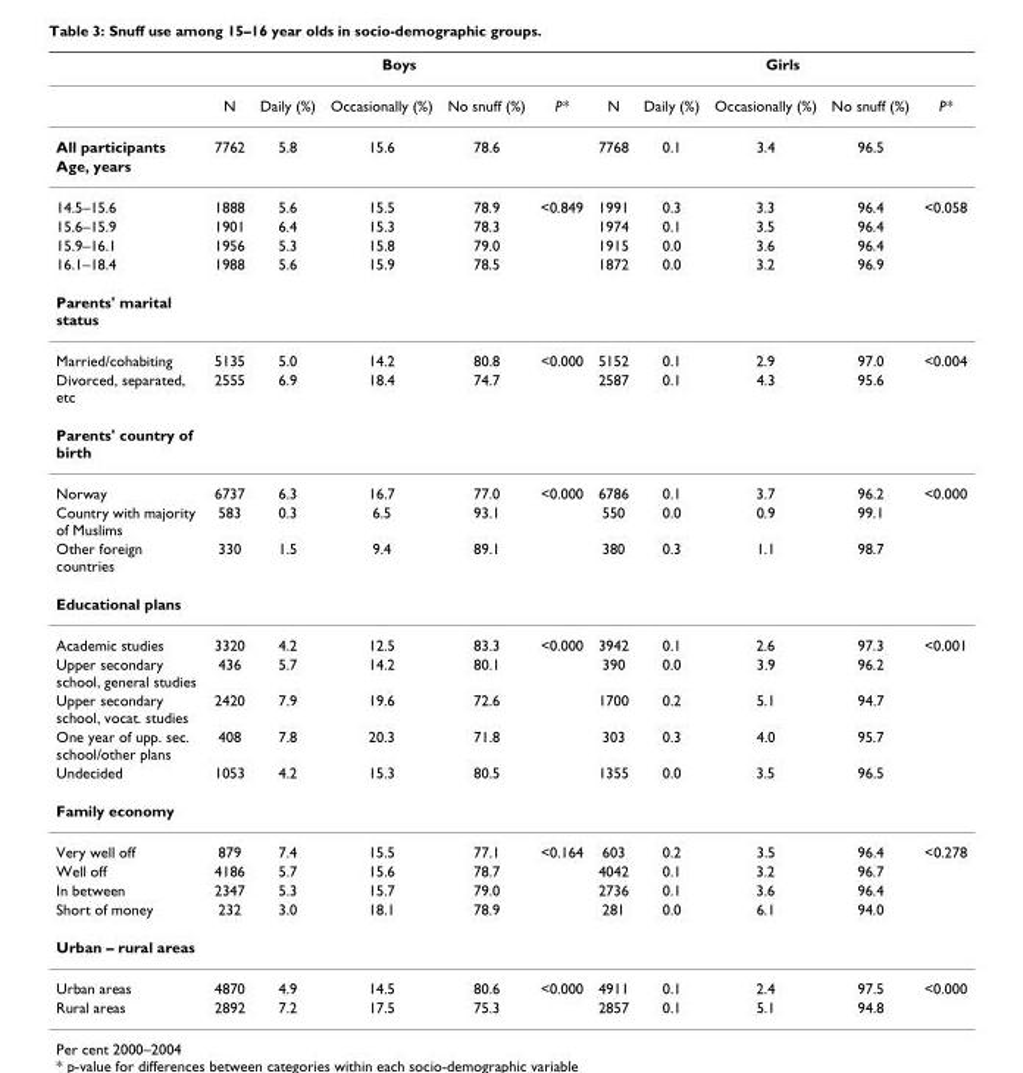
<table><thead><tr><td rowspan="2"></td><td colspan="5">Boys</td><td colspan="5">Girls</td></tr><tr><td>N</td><td>Daily (%)</td><td>Occasionally (%)</td><td>No snuff (%)</td><td>P*</td><td>N</td><td>Daily (%)</td><td>Occasionally (%)</td><td>No snuff (%)</td><td>P*</td></tr></thead><tbody><tr><td>All participants</td><td>7762</td><td>5.8</td><td>15.6</td><td>78.6</td><td></td><td>7768</td><td>0.1</td><td>3.4</td><td>96.5</td><td></td></tr><tr><td colspan="11">Age, years</td></tr><tr><td>14.5–15.6</td><td>1888</td><td>5.6</td><td>15.5</td><td>78.9</td><td>&lt;0.849</td><td>1991</td><td>0.3</td><td>3.3</td><td>96.4</td><td>&lt;0.058</td></tr><tr><td>15.6–15.9</td><td>1901</td><td>6.4</td><td>15.3</td><td>78.3</td><td></td><td>1974</td><td>0.1</td><td>3.5</td><td>96.4</td><td></td></tr><tr><td>15.9–16.1</td><td>1956</td><td>5.3</td><td>15.8</td><td>79.0</td><td></td><td>1915</td><td>0.0</td><td>3.6</td><td>96.4</td><td></td></tr><tr><td>16.1–18.4</td><td>1988</td><td>5.6</td><td>15.9</td><td>78.5</td><td></td><td>1872</td><td>0.0</td><td>3.2</td><td>96.9</td><td></td></tr><tr><td colspan="11">Parents&#x27; marital status</td></tr><tr><td>Married/cohabiting</td><td>5135</td><td>5.0</td><td>14.2</td><td>80.8</td><td>&lt;0.000</td><td>5152</td><td>0.1</td><td>2.9</td><td>97.0</td><td>&lt;0.004</td></tr><tr><td>Divorced, separated, etc</td><td>2555</td><td>6.9</td><td>18.4</td><td>74.7</td><td></td><td>2587</td><td>0.1</td><td>4.3</td><td>95.6</td><td></td></tr><tr><td colspan="11">Parents&#x27; country of birth</td></tr><tr><td>Norway</td><td>6737</td><td>6.3</td><td>16.7</td><td>77.0</td><td>&lt;0.000</td><td>6786</td><td>0.1</td><td>3.7</td><td>96.2</td><td>&lt;0.000</td></tr><tr><td>Country with majority of Muslims</td><td>583</td><td>0.3</td><td>6.5</td><td>93.1</td><td></td><td>550</td><td>0.0</td><td>0.9</td><td>99.1</td><td></td></tr><tr><td>Other foreign countries</td><td>330</td><td>1.5</td><td>9.4</td><td>89.1</td><td></td><td>380</td><td>0.3</td><td>1.1</td><td>98.7</td><td></td></tr><tr><td colspan="11">Educational plans</td></tr><tr><td>Academic studies</td><td>3320</td><td>4.2</td><td>12.5</td><td>83.3</td><td>&lt;0.000</td><td>3942</td><td>0.1</td><td>2.6</td><td>97.3</td><td>&lt;0.001</td></tr><tr><td>Upper secondary school, general studies</td><td>436</td><td>5.7</td><td>14.2</td><td>80.1</td><td></td><td>390</td><td>0.0</td><td>3.9</td><td>96.2</td><td></td></tr><tr><td>Upper secondary school, vocat. studies</td><td>2420</td><td>7.9</td><td>19.6</td><td>72.6</td><td></td><td>1700</td><td>0.2</td><td>5.1</td><td>94.7</td><td></td></tr><tr><td>One year of upp. sec. school/other plans</td><td>408</td><td>7.8</td><td>20.3</td><td>71.8</td><td></td><td>303</td><td>0.3</td><td>4.0</td><td>95.7</td><td></td></tr><tr><td>Undecided</td><td>1053</td><td>4.2</td><td>15.3</td><td>80.5</td><td></td><td>1355</td><td>0.0</td><td>3.5</td><td>96.5</td><td></td></tr><tr><td colspan="11">Family economy</td></tr><tr><td>Very well off</td><td>879</td><td>7.4</td><td>15.5</td><td>77.1</td><td>&lt;0.164</td><td>603</td><td>0.2</td><td>3.5</td><td>96.4</td><td>&lt;0.278</td></tr><tr><td>Well off</td><td>4186</td><td>5.7</td><td>15.6</td><td>78.7</td><td></td><td>4042</td><td>0.1</td><td>3.2</td><td>96.7</td><td></td></tr><tr><td>In between</td><td>2347</td><td>5.3</td><td>15.7</td><td>79.0</td><td></td><td>2736</td><td>0.1</td><td>3.6</td><td>96.4</td><td></td></tr><tr><td>Short of money</td><td>232</td><td>3.0</td><td>18.1</td><td>78.9</td><td></td><td>281</td><td>0.0</td><td>6.1</td><td>94.0</td><td></td></tr><tr><td colspan="11">Urban – rural areas</td></tr><tr><td>Urban areas</td><td>4870</td><td>4.9</td><td>14.5</td><td>80.6</td><td>&lt;0.000</td><td>4911</td><td>0.1</td><td>2.4</td><td>97.5</td><td>&lt;0.000</td></tr><tr><td>Rural areas</td><td>2892</td><td>7.2</td><td>17.5</td><td>75.3</td><td></td><td>2857</td><td>0.1</td><td>5.1</td><td>94.8</td><td></td></tr></tbody></table>